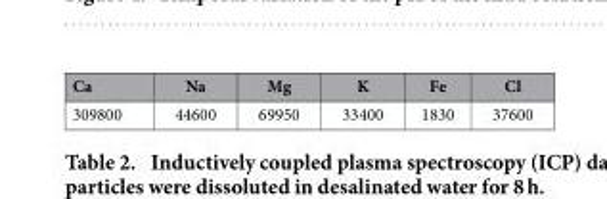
<table><thead><tr><td>Ca</td><td>Na</td><td>Mg</td><td>K</td><td>Fe</td><td>Cl</td></tr></thead><tbody><tr><td>309800</td><td>44600</td><td>69950</td><td>33400</td><td>1830</td><td>37600</td></tr></tbody></table>